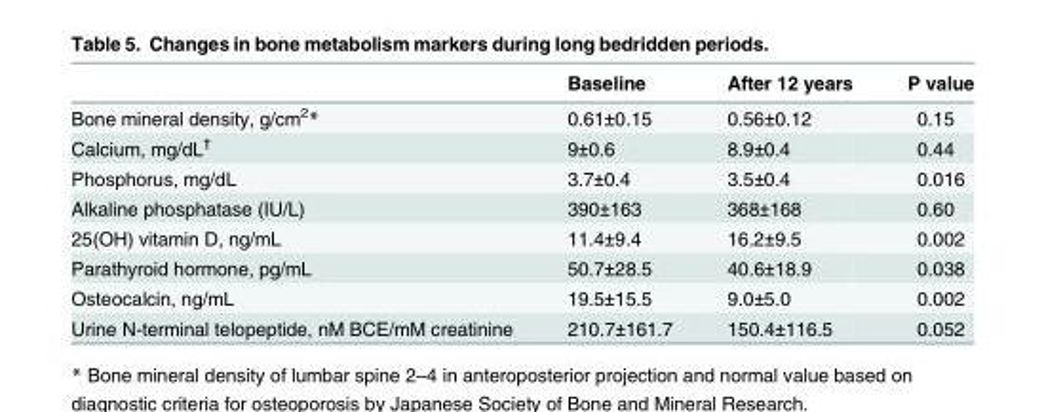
<table><thead><tr><td></td><td>Baseline</td><td>After 12 years</td><td>P value</td></tr></thead><tbody><tr><td>Bone mineral density, g/cm<sup>2</sup>*</td><td>0.61±0.15</td><td>0.56±0.12</td><td>0.15</td></tr><tr><td>Calcium, mg/dL<sup>†</sup></td><td>9±0.6</td><td>8.9±0.4</td><td>0.44</td></tr><tr><td>Phosphorus, mg/dL</td><td>3.7±0.4</td><td>3.5±0.4</td><td>0.016</td></tr><tr><td>Alkaline phosphatase (IU/L)</td><td>390±163</td><td>368±168</td><td>0.60</td></tr><tr><td>25(OH) vitamin D, ng/mL</td><td>11.4±9.4</td><td>16.2±9.5</td><td>0.002</td></tr><tr><td>Parathyroid hormone, pg/mL</td><td>50.7±28.5</td><td>40.6±18.9</td><td>0.038</td></tr><tr><td>Osteocalcin, ng/mL</td><td>19.5±15.5</td><td>9.0±5.0</td><td>0.002</td></tr><tr><td>Urine N-terminal telopeptide, nM BCE/mM creatinine</td><td>210.7±161.7</td><td>150.4±116.5</td><td>0.052</td></tr></tbody></table>